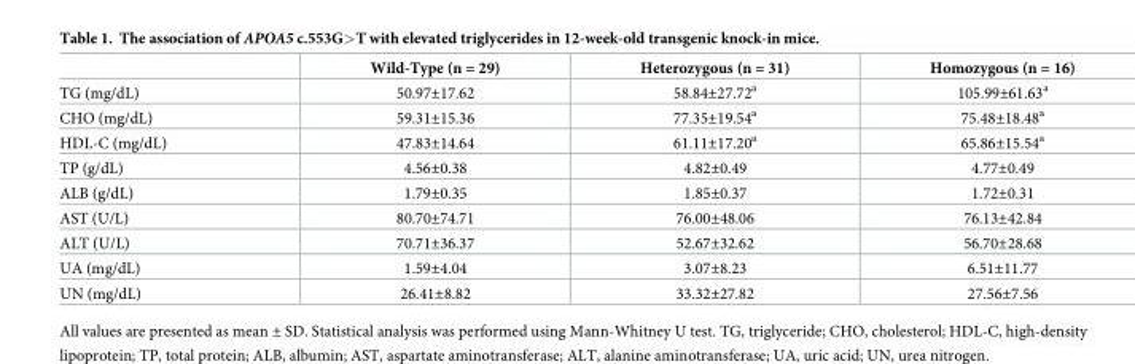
<table><thead><tr><td></td><td>Wild-Type (n = 29)</td><td>Heterozygous (n = 31)</td><td>Homozygous (n = 16)</td></tr></thead><tbody><tr><td>TG (mg/dL)</td><td>50.97±17.62</td><td>58.84±27.72<sup>a</sup></td><td>105.99±61.63<sup>a</sup></td></tr><tr><td>CHO (mg/dL)</td><td>59.31±15.36</td><td>77.35±19.54<sup>a</sup></td><td>75.48±18.48<sup>a</sup></td></tr><tr><td>HDL-C (mg/dL)</td><td>47.83±14.64</td><td>61.11±17.20<sup>a</sup></td><td>65.86±15.54<sup>a</sup></td></tr><tr><td>TP (g/dL)</td><td>4.56±0.38</td><td>4.82±0.49</td><td>4.77±0.49</td></tr><tr><td>ALB (g/dL)</td><td>1.79±0.35</td><td>1.85±0.37</td><td>1.72±0.31</td></tr><tr><td>AST (U/L)</td><td>80.70±74.71</td><td>76.00±48.06</td><td>76.13±42.84</td></tr><tr><td>ALT (U/L)</td><td>70.71±36.37</td><td>52.67±32.62</td><td>56.70±28.68</td></tr><tr><td>UA (mg/dL)</td><td>1.59±4.04</td><td>3.07±8.23</td><td>6.51±11.77</td></tr><tr><td>UN (mg/dL)</td><td>26.41±8.82</td><td>33.32±27.82</td><td>27.56±7.56</td></tr></tbody></table>